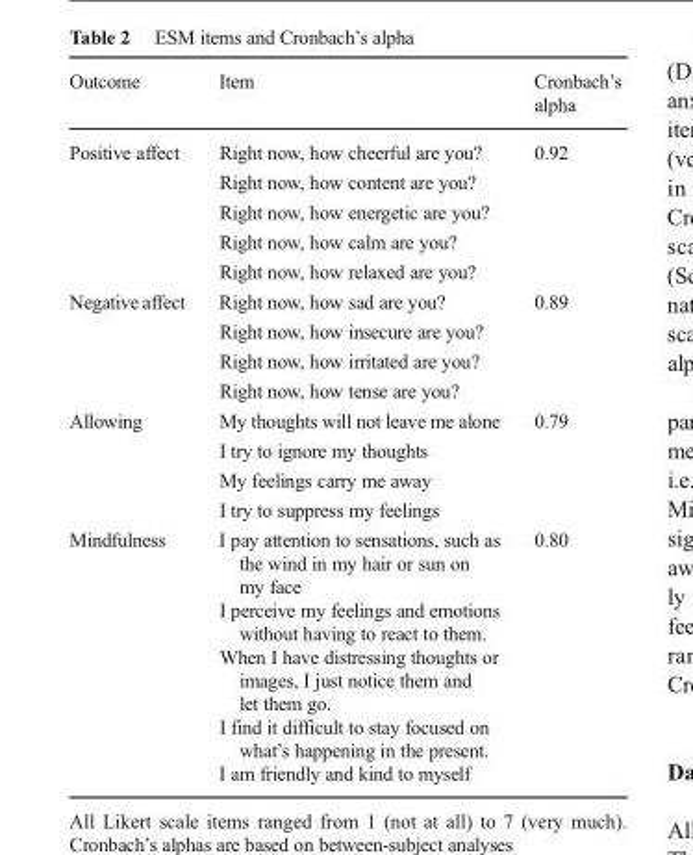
<table><thead><tr><td>Outcome</td><td>Item</td><td>Cronbach’s alpha</td></tr></thead><tbody><tr><td rowspan="5">Positive affect</td><td>Right now, how cheerful are you?</td><td>0.92</td></tr><tr><td>Right now, how content are you?</td><td></td></tr><tr><td>Right now, how energetic are you?</td><td></td></tr><tr><td>Right now, how calm are you?</td><td></td></tr><tr><td>Right now, how relaxed are you?</td><td></td></tr><tr><td rowspan="4">Negative affect</td><td>Right now, how sad are you?</td><td>0.89</td></tr><tr><td>Right now, how insecure are you?</td><td></td></tr><tr><td>Right now, how irritated are you?</td><td></td></tr><tr><td>Right now, how tense are you?</td><td></td></tr><tr><td rowspan="4">Allowing</td><td>My thoughts will not leave me alone</td><td>0.79</td></tr><tr><td>I try to ignore my thoughts</td><td></td></tr><tr><td>My feelings carry me away</td><td></td></tr><tr><td>I try to suppress my feelings</td><td></td></tr><tr><td rowspan="5">Mindfulness</td><td>I pay attention to sensations, such as the wind in my hair or sun on my face</td><td>0.80</td></tr><tr><td>I perceive my feelings and emotions without having to react to them.</td><td></td></tr><tr><td>When I have distressing thoughts or images, I just notice them and let them go.</td><td></td></tr><tr><td>I find it difficult to stay focused on what’s happening in the present.</td><td></td></tr><tr><td>I am friendly and kind to myself</td><td></td></tr></tbody></table>